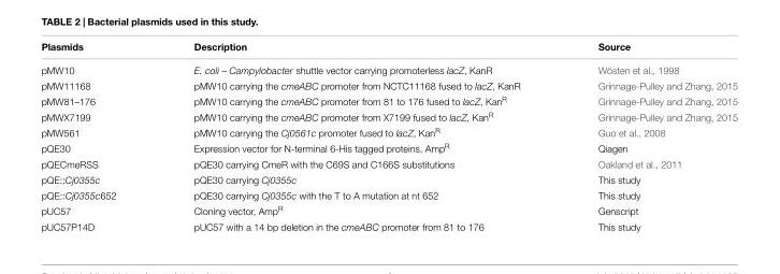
<table><thead><tr><td>Plasmids</td><td>Description</td><td>Source</td></tr></thead><tbody><tr><td>pMW10</td><td>E. coli – Campylobacter shuttle vector carrying promoterless lacZ, KanR</td><td>Wösten et al., 1998</td></tr><tr><td>pMW11168</td><td>pMW10 carrying the cmeABC promoter from NCTC11168 fused to lacZ, KanR</td><td>Grinnage-Pulley and Zhang, 2015</td></tr><tr><td>pMW81–176</td><td>pMW10 carrying the cmeABC promoter from 81 to 176 fused to lacZ, Kan<sup>R</sup></td><td>Grinnage-Pulley and Zhang, 2015</td></tr><tr><td>pMWX7199</td><td>pMW10 carrying the cmeABC promoter from X7199 fused to lacZ, Kan<sup>R</sup></td><td>Grinnage-Pulley and Zhang, 2015</td></tr><tr><td>pMW561</td><td>pMW10 carrying the Cj0561c promoter fused to lacZ, Kan<sup>R</sup></td><td>Guo et al., 2008</td></tr><tr><td>pQE30</td><td>Expression vector for N-terminal 6-His tagged proteins, Amp<sup>R</sup></td><td>Qiagen</td></tr><tr><td>pQECmeRSS</td><td>pQE30 carrying CmeR with the C69S and C166S substitutions</td><td>Oakland et al., 2011</td></tr><tr><td>pQE::Cj0355c</td><td>pQE30 carrying Cj0355c</td><td>This study</td></tr><tr><td>pQE::Cj0355c652</td><td>pQE30 carrying Cj0355c with the T to A mutation at nt 652</td><td>This study</td></tr><tr><td>pUC57</td><td>Cloning vector, Amp<sup>R</sup></td><td>Genscript</td></tr><tr><td>pUC57P14D</td><td>pUC57 with a 14 bp deletion in the cmeABC promoter from 81 to 176</td><td>This study</td></tr></tbody></table>